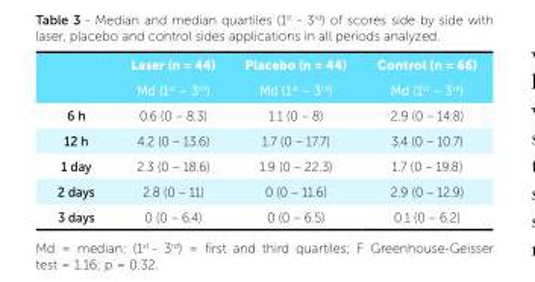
<table><thead><tr><td rowspan="2"></td><td rowspan="2">Laser (n = 44) Md (1<sup>st</sup> – 3<sup>rd</sup>)</td><td rowspan="2">Placebo (n = 44) Md (1<sup>st</sup> – 3<sup>rd</sup>)</td><td rowspan="2">Control (n = 66) Md (1<sup>st</sup> – 3<sup>rd</sup>)</td></tr><tr></tr></thead><tbody><tr><td>6 h</td><td>0.6 (0 – 8.3)</td><td>1.1 (0 – 8)</td><td>2.9 (0 – 14.8)</td></tr><tr><td>12 h</td><td>4.2 (0 – 13.6)</td><td>1.7 (0 – 17.7)</td><td>3.4 (0 – 10.7)</td></tr><tr><td>1 day</td><td>2.3 (0 – 18.6)</td><td>1.9 (0 – 22.3)</td><td>1.7 (0 – 19.8)</td></tr><tr><td>2 days</td><td>2.8 (0 – 11)</td><td>0 (0 – 11.6)</td><td>2.9 (0 – 12.9)</td></tr><tr><td>3 days</td><td>0 (0 – 6.4)</td><td>0 (0 – 6.5)</td><td>0.1 (0 – 6.2)</td></tr></tbody></table>